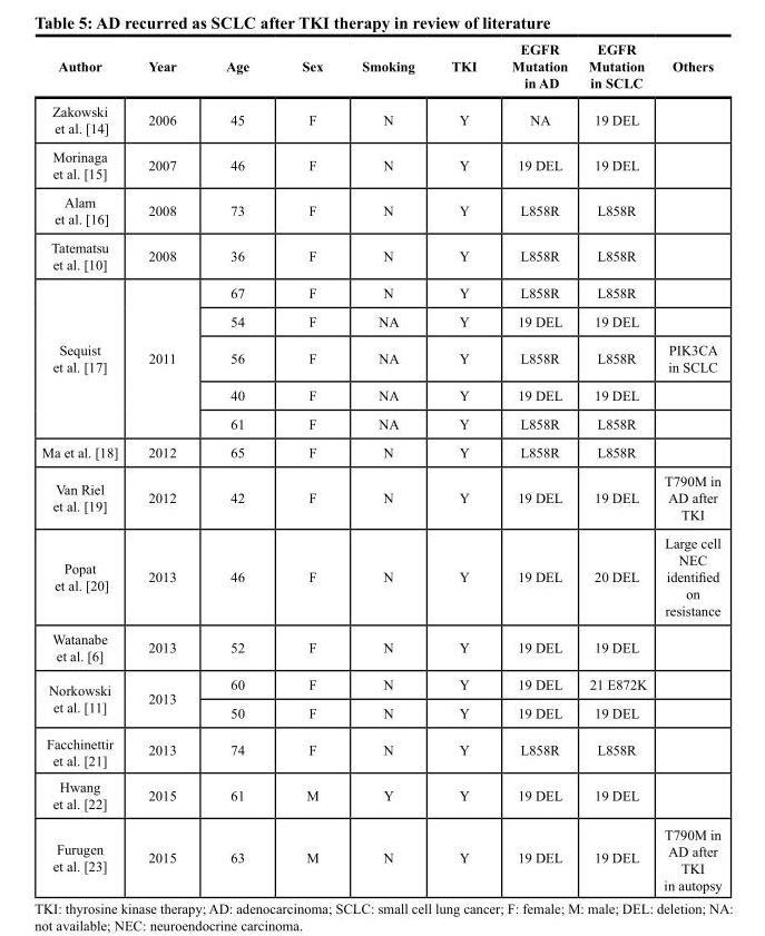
<table><thead><tr><td>Author</td><td>Year</td><td>Age</td><td>Sex</td><td>Smoking</td><td>TKI</td><td>EGFR Mutation in AD</td><td>EGFR Mutation in SCLC</td><td>Others</td></tr></thead><tbody><tr><td>Zakowski et al. [14]</td><td>2006</td><td>45</td><td>F</td><td>N</td><td>Y</td><td>NA</td><td>19 DEL</td><td></td></tr><tr><td>Morinaga et al. [15]</td><td>2007</td><td>46</td><td>F</td><td>N</td><td>Y</td><td>19 DEL</td><td>19 DEL</td><td></td></tr><tr><td>Alam et al. [16]</td><td>2008</td><td>73</td><td>F</td><td>N</td><td>Y</td><td>L858R</td><td>L858R</td><td></td></tr><tr><td>Tatematsu et al. [10]</td><td>2008</td><td>36</td><td>F</td><td>N</td><td>Y</td><td>L858R</td><td>L858R</td><td></td></tr><tr><td rowspan="5">Sequist et al. [17]</td><td rowspan="5">2011</td><td>67</td><td>F</td><td>N</td><td>Y</td><td>L858R</td><td>L858R</td><td></td></tr><tr><td>54</td><td>F</td><td>NA</td><td>Y</td><td>19 DEL</td><td>19 DEL</td><td></td></tr><tr><td>56</td><td>F</td><td>NA</td><td>Y</td><td>L858R</td><td>L858R</td><td>PIK3CA in SCLC</td></tr><tr><td>40</td><td>F</td><td>NA</td><td>Y</td><td>19 DEL</td><td>19 DEL</td><td></td></tr><tr><td>61</td><td>F</td><td>NA</td><td>Y</td><td>L858R</td><td>L858R</td><td></td></tr><tr><td>Ma et al. [18]</td><td>2012</td><td>65</td><td>F</td><td>N</td><td>Y</td><td>L858R</td><td>L858R</td><td></td></tr><tr><td>Van Riel et al. [19]</td><td>2012</td><td>42</td><td>F</td><td>N</td><td>Y</td><td>19 DEL</td><td>19 DEL</td><td>T790M in AD after TKI</td></tr><tr><td>Popat et al. [20]</td><td>2013</td><td>46</td><td>F</td><td>N</td><td>Y</td><td>19 DEL</td><td>20 DEL</td><td>Large cell NEC identified on resistance</td></tr><tr><td>Watanabe et al. [6]</td><td>2013</td><td>52</td><td>F</td><td>N</td><td>Y</td><td>19 DEL</td><td>19 DEL</td><td></td></tr><tr><td rowspan="2">Norkowski et al. [11]</td><td rowspan="2">2013</td><td>60</td><td>F</td><td>N</td><td>Y</td><td>19 DEL</td><td>21 E872K</td><td></td></tr><tr><td>50</td><td>F</td><td>N</td><td>Y</td><td>19 DEL</td><td>19 DEL</td><td></td></tr><tr><td>Facchinettir et al. [21]</td><td>2013</td><td>74</td><td>F</td><td>N</td><td>Y</td><td>L858R</td><td>L858R</td><td></td></tr><tr><td>Hwang et al. [22]</td><td>2015</td><td>61</td><td>M</td><td>Y</td><td>Y</td><td>19 DEL</td><td>19 DEL</td><td></td></tr><tr><td>Furugen et al. [23]</td><td>2015</td><td>63</td><td>M</td><td>N</td><td>Y</td><td>19 DEL</td><td>19 DEL</td><td>T790M in AD after TKI in autopsy</td></tr></tbody></table>